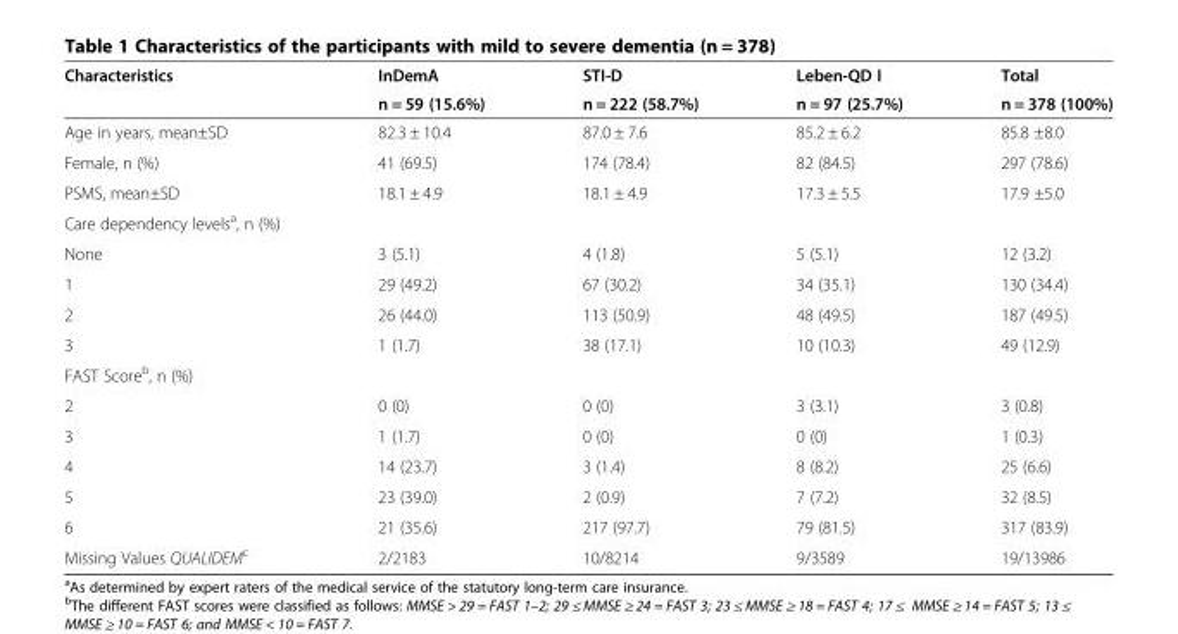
<table><thead><tr><td rowspan="2">Characteristics</td><td rowspan="2">InDemA n = 59 (15.6%)</td><td rowspan="2">STI-D n = 222 (58.7%)</td><td rowspan="2">Leben-QD I n = 97 (25.7%)</td><td rowspan="2">Total n = 378 (100%)</td></tr><tr></tr></thead><tbody><tr><td>Age in years, mean±SD</td><td>82.3 ± 10.4</td><td>87.0 ± 7.6</td><td>85.2 ± 6.2</td><td>85.8 ±8.0</td></tr><tr><td>Female, n (%)</td><td>41 (69.5)</td><td>174 (78.4)</td><td>82 (84.5)</td><td>297 (78.6)</td></tr><tr><td>PSMS, mean±SD</td><td>18.1 ± 4.9</td><td>18.1 ± 4.9</td><td>17.3 ± 5.5</td><td>17.9 ±5.0</td></tr><tr><td colspan="5">Care dependency levels<sup>a</sup>, n (%)</td></tr><tr><td>None</td><td>3 (5.1)</td><td>4 (1.8)</td><td>5 (5.1)</td><td>12 (3.2)</td></tr><tr><td>1</td><td>29 (49.2)</td><td>67 (30.2)</td><td>34 (35.1)</td><td>130 (34.4)</td></tr><tr><td>2</td><td>26 (44.0)</td><td>113 (50.9)</td><td>48 (49.5)</td><td>187 (49.5)</td></tr><tr><td>3</td><td>1 (1.7)</td><td>38 (17.1)</td><td>10 (10.3)</td><td>49 (12.9)</td></tr><tr><td colspan="5">FAST Score<sup>b</sup>, n (%)</td></tr><tr><td>2</td><td>0 (0)</td><td>0 (0)</td><td>3 (3.1)</td><td>3 (0.8)</td></tr><tr><td>3</td><td>1 (1.7)</td><td>0 (0)</td><td>0 (0)</td><td>1 (0.3)</td></tr><tr><td>4</td><td>14 (23.7)</td><td>3 (1.4)</td><td>8 (8.2)</td><td>25 (6.6)</td></tr><tr><td>5</td><td>23 (39.0)</td><td>2 (0.9)</td><td>7 (7.2)</td><td>32 (8.5)</td></tr><tr><td>6</td><td>21 (35.6)</td><td>217 (97.7)</td><td>79 (81.5)</td><td>317 (83.9)</td></tr><tr><td>Missing Values QUALIDEM<sup>c</sup></td><td>2/2183</td><td>10/8214</td><td>9/3589</td><td>19/13986</td></tr></tbody></table>